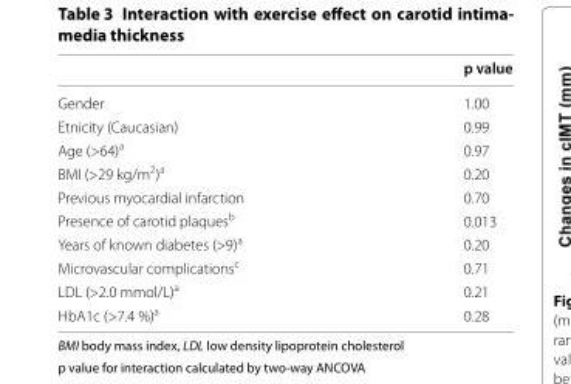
<table><thead><tr><td></td><td>p value</td></tr></thead><tbody><tr><td>Gender</td><td>1.00</td></tr><tr><td>Etnicity (Caucasian)</td><td>0.99</td></tr><tr><td>Age (&gt;64)<sup>a</sup></td><td>0.97</td></tr><tr><td>BMI (&gt;29 kg/m<sup>2</sup>)<sup>a</sup></td><td>0.20</td></tr><tr><td>Previous myocardial infarction</td><td>0.70</td></tr><tr><td>Presence of carotid plaques<sup>b</sup></td><td>0.013</td></tr><tr><td>Years of known diabetes (&gt;9)<sup>a</sup></td><td>0.20</td></tr><tr><td>Microvascular complications<sup>c</sup></td><td>0.71</td></tr><tr><td>LDL (&gt;2.0 mmol/L)<sup>a</sup></td><td>0.21</td></tr><tr><td>HbA1c (&gt;7.4 %)<sup>a</sup></td><td>0.28</td></tr></tbody></table>